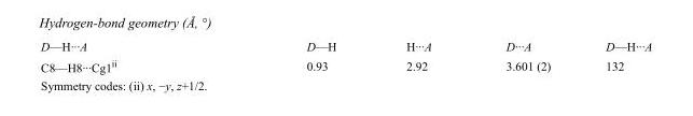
<table><tbody><tr><td>D—H···A</td><td>D—H</td><td>H···A</td><td>D···A</td><td>D—H···A</td></tr><tr><td>C8—H8···Cg1<sup>ii</sup></td><td>0.93</td><td>2.92</td><td>3.601 (2)</td><td>132</td></tr></tbody></table>